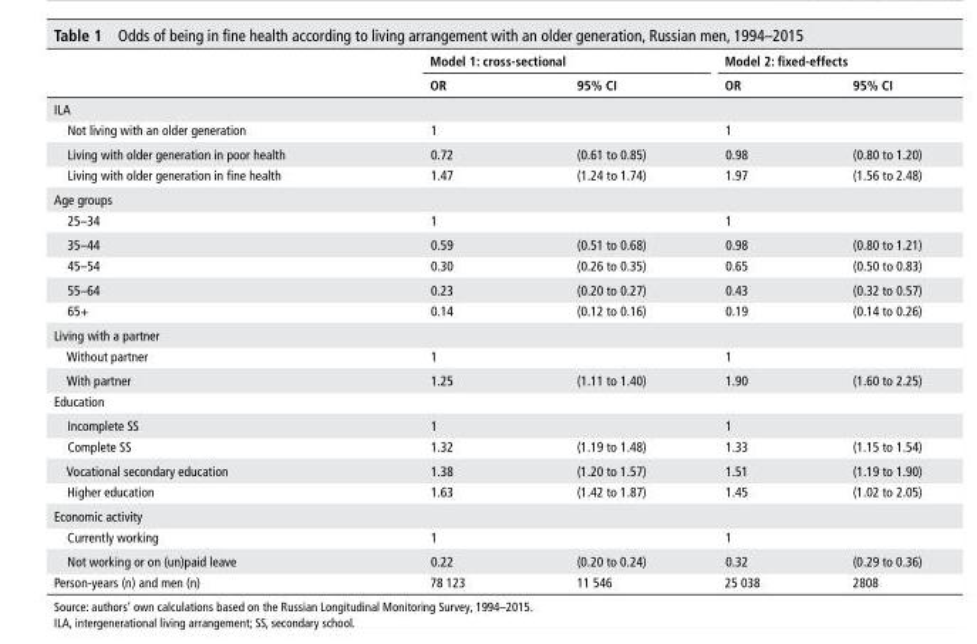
<table><thead><tr><td rowspan="2"></td><td colspan="2">Model 1: cross-sectional</td><td colspan="2">Model 2: fixed-effects</td></tr><tr><td>or</td><td>95% CI</td><td>or</td><td>95% CI</td></tr></thead><tbody><tr><td colspan="5">ILA</td></tr><tr><td>Not living with an older generation</td><td>1</td><td></td><td>1</td><td></td></tr><tr><td>Living with older generation in poor health</td><td>0.72</td><td>(0.61 to 0.85)</td><td>0.98</td><td>(0.80 to 1.20)</td></tr><tr><td>Living with older generation in fine health</td><td>1.47</td><td>(1.24 to 1.74)</td><td>1.97</td><td>(1.56 to 2.48)</td></tr><tr><td colspan="5">Age groups</td></tr><tr><td>25–34</td><td>1</td><td></td><td>1</td><td></td></tr><tr><td>35–44</td><td>0.59</td><td>(0.51 to 0.68)</td><td>0.98</td><td>(0.80 to 1.21)</td></tr><tr><td>45–54</td><td>0.30</td><td>(0.26 to 0.35)</td><td>0.65</td><td>(0.50 to 0.83)</td></tr><tr><td>55–64</td><td>0.23</td><td>(0.20 to 0.27)</td><td>0.43</td><td>(0.32 to 0.57)</td></tr><tr><td>65+</td><td>0.14</td><td>(0.12 to 0.16)</td><td>0.19</td><td>(0.14 to 0.26)</td></tr><tr><td colspan="5">Living with a partner</td></tr><tr><td>Without partner</td><td>1</td><td></td><td>1</td><td></td></tr><tr><td>With partner</td><td>1.25</td><td>(1.11 to 1.40)</td><td>1.90</td><td>(1.60 to 2.25)</td></tr><tr><td colspan="5">Education</td></tr><tr><td>Incomplete SS</td><td>1</td><td></td><td>1</td><td></td></tr><tr><td>Complete SS</td><td>1.32</td><td>(1.19 to 1.48)</td><td>1.33</td><td>(1.15 to 1.54)</td></tr><tr><td>Vocational secondary education</td><td>1.38</td><td>(1.20 to 1.57)</td><td>1.51</td><td>(1.19 to 1.90)</td></tr><tr><td>Higher education</td><td>1.63</td><td>(1.42 to 1.87)</td><td>1.45</td><td>(1.02 to 2.05)</td></tr><tr><td colspan="5">Economic activity</td></tr><tr><td>Currently working</td><td>1</td><td></td><td>1</td><td></td></tr><tr><td>Not working or on (un)paid leave</td><td>0.22</td><td>(0.20 to 0.24)</td><td>0.32</td><td>(0.29 to 0.36)</td></tr><tr><td>Person-years (n) and men (n)</td><td>78 123</td><td>11 546</td><td>25 038</td><td>2808</td></tr></tbody></table>